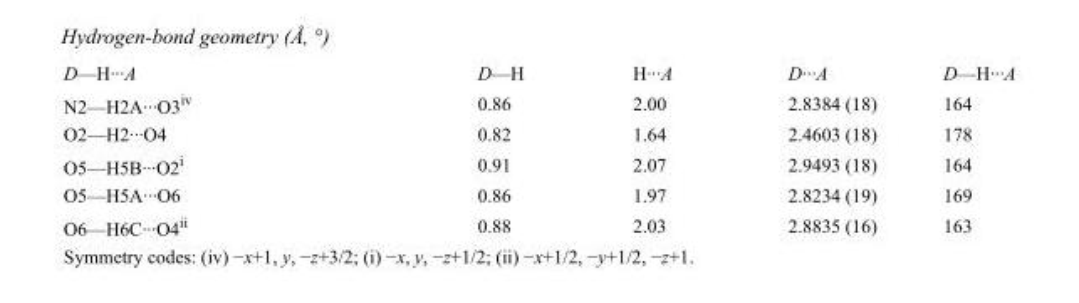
<table><tbody><tr><td>D—H···A</td><td>D—H</td><td>H···A</td><td>D···A</td><td>D—H···A</td></tr><tr><td>N2—H2A···O3<sup>iv</sup></td><td>0.86</td><td>2.00</td><td>2.8384 (18)</td><td>164</td></tr><tr><td>O2—H2···O4</td><td>0.82</td><td>1.64</td><td>2.4603 (18)</td><td>178</td></tr><tr><td>O5—H5B···O2<sup>i</sup></td><td>0.91</td><td>2.07</td><td>2.9493 (18)</td><td>164</td></tr><tr><td>O5—H5A···O6</td><td>0.86</td><td>1.97</td><td>2.8234 (19)</td><td>169</td></tr><tr><td>O6—H6C···O4<sup>ii</sup></td><td>0.88</td><td>2.03</td><td>2.8835 (16)</td><td>163</td></tr></tbody></table>